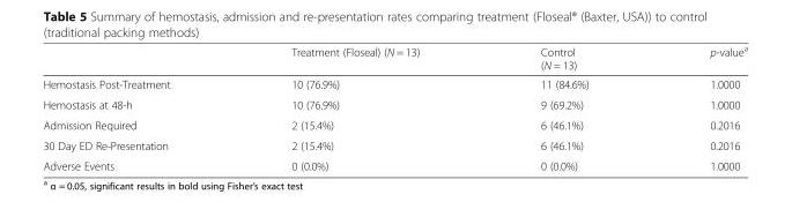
<table><thead><tr><td></td><td>Treatment (Floseal) (N = 13)</td><td>Control (N = 13)</td><td>p-value<sup>a</sup></td></tr></thead><tbody><tr><td>Hemostasis Post-Treatment</td><td>10 (76.9%)</td><td>11 (84.6%)</td><td>1.0000</td></tr><tr><td>Hemostasis at 48-h</td><td>10 (76.9%)</td><td>9 (69.2%)</td><td>1.0000</td></tr><tr><td>Admission Required</td><td>2 (15.4%)</td><td>6 (46.1%)</td><td>0.2016</td></tr><tr><td>30 Day ED Re-Presentation</td><td>2 (15.4%)</td><td>6 (46.1%)</td><td>0.2016</td></tr><tr><td>Adverse Events</td><td>0 (0.0%)</td><td>0 (0.0%)</td><td>1.0000</td></tr></tbody></table>